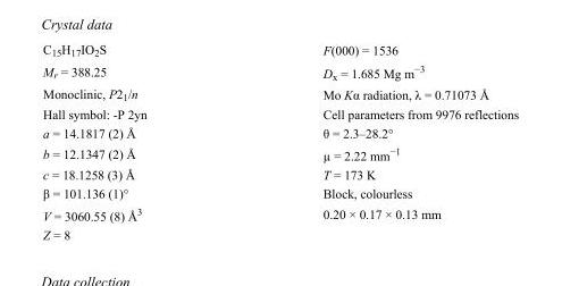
<table><tbody><tr><td>C<sub>15</sub>H<sub>17</sub>IO<sub>2</sub>S</td><td>F(000) = 1536</td></tr><tr><td>M<sub>r</sub> = 388.25</td><td>D<sub>x</sub> = 1.685 Mg m<sup>−3</sup></td></tr><tr><td>Monoclinic, P2<sub>1</sub>/n</td><td>Mo Kα radiation, λ = 0.71073 Å</td></tr><tr><td>Hall symbol: -P 2yn</td><td>Cell parameters from 9976 reflections</td></tr><tr><td>a = 14.1817 (2) Å</td><td>θ = 2.3–28.2°</td></tr><tr><td>b = 12.1347 (2) Å</td><td>µ = 2.22 mm<sup>−1</sup></td></tr><tr><td>c = 18.1258 (3) Å</td><td>T = 173 K</td></tr><tr><td>β = 101.136 (1)°</td><td>Block, colourless</td></tr><tr><td>V = 3060.55 (8) Å<sup>3</sup></td><td>0.20 × 0.17 × 0.13 mm</td></tr><tr><td>Z = 8</td><td></td></tr></tbody></table>